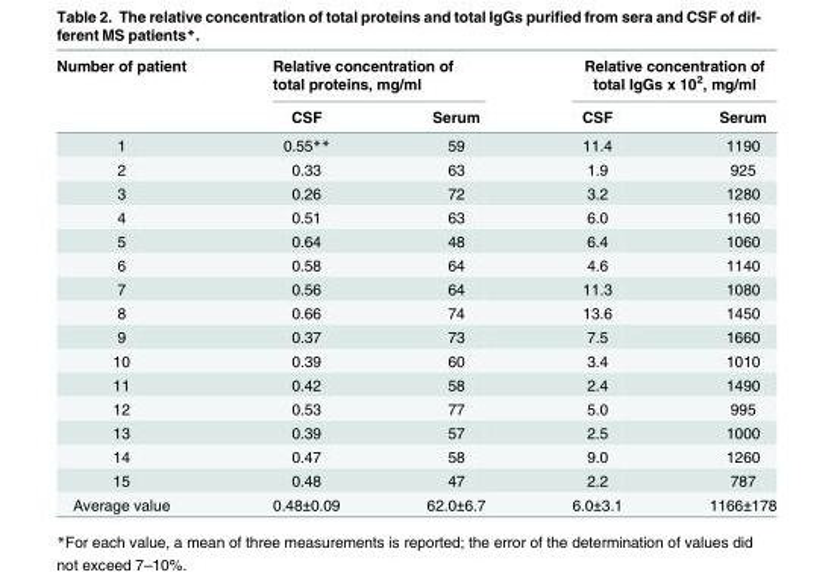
<table><thead><tr><td rowspan="2">Number of patient</td><td colspan="2">Relative concentration of total proteins, mg/ml</td><td colspan="2">Relative concentration of total IgGs x 10<sup>2</sup>, mg/ml</td></tr><tr><td>CSF</td><td>Serum</td><td>CSF</td><td>Serum</td></tr></thead><tbody><tr><td>1</td><td>0.55**</td><td>59</td><td>11.4</td><td>1190</td></tr><tr><td>2</td><td>0.33</td><td>63</td><td>1.9</td><td>925</td></tr><tr><td>3</td><td>0.26</td><td>72</td><td>3.2</td><td>1280</td></tr><tr><td>4</td><td>0.51</td><td>63</td><td>6.0</td><td>1160</td></tr><tr><td>5</td><td>0.64</td><td>48</td><td>6.4</td><td>1060</td></tr><tr><td>6</td><td>0.58</td><td>64</td><td>4.6</td><td>1140</td></tr><tr><td>7</td><td>0.56</td><td>64</td><td>11.3</td><td>1080</td></tr><tr><td>8</td><td>0.66</td><td>74</td><td>13.6</td><td>1450</td></tr><tr><td>9</td><td>0.37</td><td>73</td><td>7.5</td><td>1660</td></tr><tr><td>10</td><td>0.39</td><td>60</td><td>3.4</td><td>1010</td></tr><tr><td>11</td><td>0.42</td><td>58</td><td>2.4</td><td>1490</td></tr><tr><td>12</td><td>0.53</td><td>77</td><td>5.0</td><td>995</td></tr><tr><td>13</td><td>0.39</td><td>57</td><td>2.5</td><td>1000</td></tr><tr><td>14</td><td>0.47</td><td>58</td><td>9.0</td><td>1260</td></tr><tr><td>15</td><td>0.48</td><td>47</td><td>2.2</td><td>787</td></tr><tr><td>Average value</td><td>0.48±0.09</td><td>62.0±6.7</td><td>6.0±3.1</td><td>1166±178</td></tr></tbody></table>